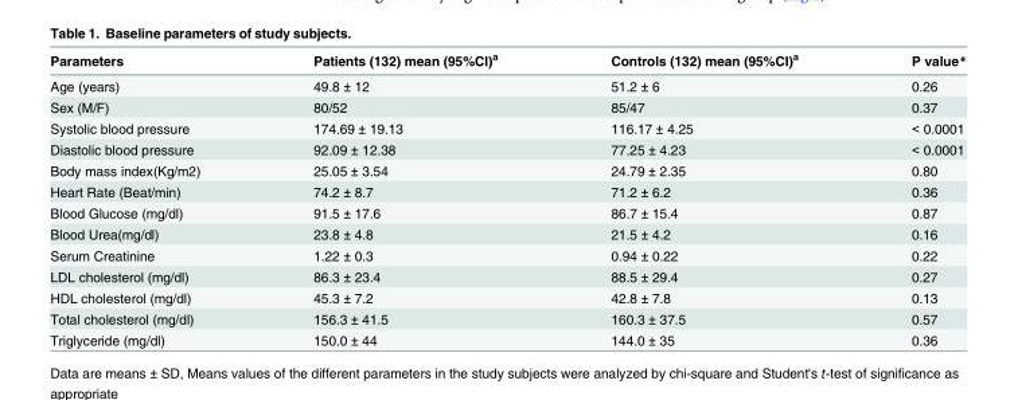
<table><thead><tr><td>Parameters</td><td>Patients (132) mean (95%CI)<sup>a</sup></td><td>Controls (132) mean (95%CI)<sup>a</sup></td><td>P value*</td></tr></thead><tbody><tr><td>Age (years)</td><td>49.8 ± 12</td><td>51.2 ± 6</td><td>0.26</td></tr><tr><td>Sex (M/F)</td><td>80/52</td><td>85/47</td><td>0.37</td></tr><tr><td>Systolic blood pressure</td><td>174.69 ± 19.13</td><td>116.17 ± 4.25</td><td>&lt; 0.0001</td></tr><tr><td>Diastolic blood pressure</td><td>92.09 ± 12.38</td><td>77.25 ± 4.23</td><td>&lt; 0.0001</td></tr><tr><td>Body mass index(Kg/m2)</td><td>25.05 ± 3.54</td><td>24.79 ± 2.35</td><td>0.80</td></tr><tr><td>Heart Rate (Beat/min)</td><td>74.2 ± 8.7</td><td>71.2 ± 6.2</td><td>0.36</td></tr><tr><td>Blood Glucose (mg/dl)</td><td>91.5 ± 17.6</td><td>86.7 ± 15.4</td><td>0.87</td></tr><tr><td>Blood Urea(mg/dl)</td><td>23.8 ± 4.8</td><td>21.5 ± 4.2</td><td>0.16</td></tr><tr><td>Serum Creatinine</td><td>1.22 ± 0.3</td><td>0.94 ± 0.22</td><td>0.22</td></tr><tr><td>LDL cholesterol (mg/dl)</td><td>86.3 ± 23.4</td><td>88.5 ± 29.4</td><td>0.27</td></tr><tr><td>HDL cholesterol (mg/dl)</td><td>45.3 ± 7.2</td><td>42.8 ± 7.8</td><td>0.13</td></tr><tr><td>Total cholesterol (mg/dl)</td><td>156.3 ± 41.5</td><td>160.3 ± 37.5</td><td>0.57</td></tr><tr><td>Triglyceride (mg/dl)</td><td>150.0 ± 44</td><td>144.0 ± 35</td><td>0.36</td></tr></tbody></table>